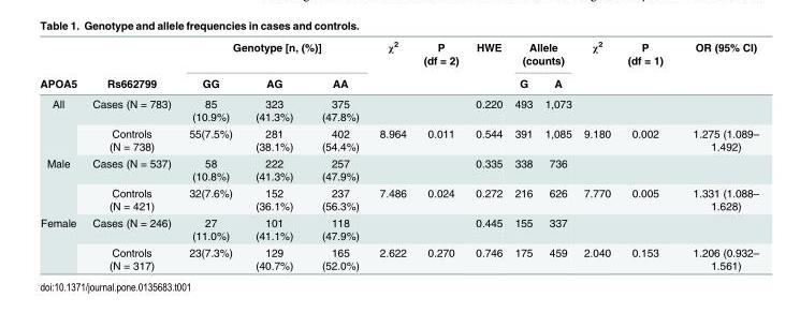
<table><thead><tr><td rowspan="2">APOA5</td><td rowspan="2">Rs662799</td><td colspan="3">Genotype [n, (%)]</td><td rowspan="2">χ<sup>2</sup></td><td rowspan="2">P (df = 2)</td><td rowspan="2">HWE</td><td colspan="2">Allele (counts)</td><td rowspan="2">χ<sup>2</sup></td><td rowspan="2">P (df = 1)</td><td rowspan="2">OR (95% CI)</td></tr><tr><td>GG</td><td>AG</td><td>AA</td><td>G</td><td>A</td></tr></thead><tbody><tr><td rowspan="2">All</td><td>Cases (N = 783)</td><td>85 (10.9%)</td><td>323 (41.3%)</td><td>375 (47.8%)</td><td></td><td></td><td>0.220</td><td>493</td><td>1,073</td><td></td><td></td><td></td></tr><tr><td>Controls (N = 738)</td><td>55(7.5%)</td><td>281 (38.1%)</td><td>402 (54.4%)</td><td>8.964</td><td>0.011</td><td>0.544</td><td>391</td><td>1,085</td><td>9.180</td><td>0.002</td><td>1.275 (1.089– 1.492)</td></tr><tr><td rowspan="2">Male</td><td>Cases (N = 537)</td><td>58 (10.8%)</td><td>222 (41.3%)</td><td>257 (47.9%)</td><td></td><td></td><td>0.335</td><td>338</td><td>736</td><td></td><td></td><td></td></tr><tr><td>Controls (N = 421)</td><td>32(7.6%)</td><td>152 (36.1%)</td><td>237 (56.3%)</td><td>7.486</td><td>0.024</td><td>0.272</td><td>216</td><td>626</td><td>7.770</td><td>0.005</td><td>1.331 (1.088– 1.628)</td></tr><tr><td rowspan="2">Female</td><td>Cases (N = 246)</td><td>27 (11.0%)</td><td>101 (41.1%)</td><td>118 (47.9%)</td><td></td><td></td><td>0.445</td><td>155</td><td>337</td><td></td><td></td><td></td></tr><tr><td>Controls (N = 317)</td><td>23(7.3%)</td><td>129 (40.7%)</td><td>165 (52.0%)</td><td>2.622</td><td>0.270</td><td>0.746</td><td>175</td><td>459</td><td>2.040</td><td>0.153</td><td>1.206 (0.932– 1.561)</td></tr></tbody></table>